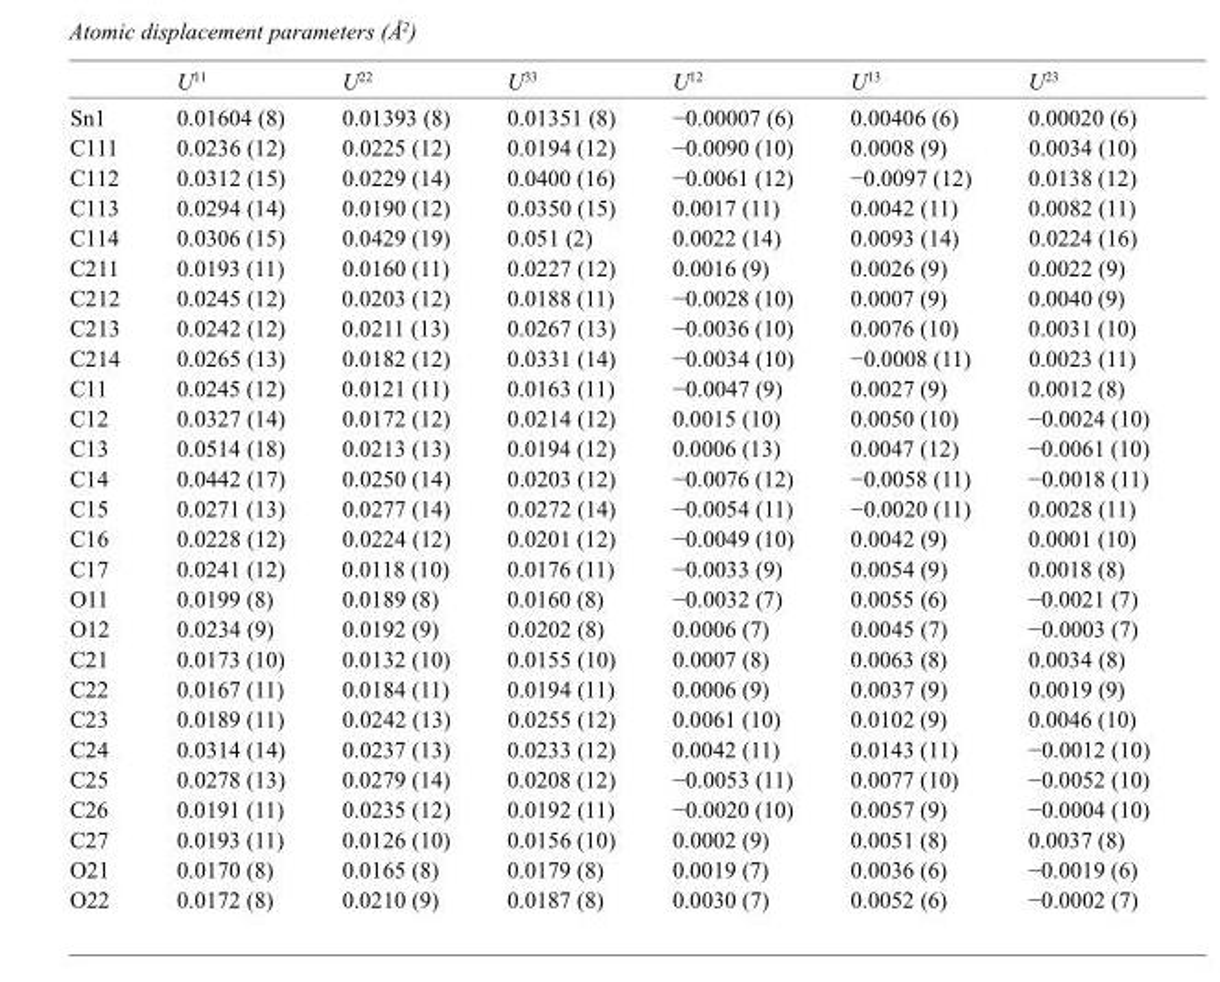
<table><thead><tr><td></td><td>U<sup>11</sup></td><td>U<sup>22</sup></td><td>U<sup>33</sup></td><td>U<sup>12</sup></td><td>U<sup>13</sup></td><td>U<sup>23</sup></td></tr></thead><tbody><tr><td>Sn1</td><td>0.01604 (8)</td><td>0.01393 (8)</td><td>0.01351 (8)</td><td>−0.00007 (6)</td><td>0.00406 (6)</td><td>0.00020 (6)</td></tr><tr><td>C111</td><td>0.0236 (12)</td><td>0.0225 (12)</td><td>0.0194 (12)</td><td>−0.0090 (10)</td><td>0.0008 (9)</td><td>0.0034 (10)</td></tr><tr><td>C112</td><td>0.0312 (15)</td><td>0.0229 (14)</td><td>0.0400 (16)</td><td>−0.0061 (12)</td><td>−0.0097 (12)</td><td>0.0138 (12)</td></tr><tr><td>C113</td><td>0.0294 (14)</td><td>0.0190 (12)</td><td>0.0350 (15)</td><td>0.0017 (11)</td><td>0.0042 (11)</td><td>0.0082 (11)</td></tr><tr><td>C114</td><td>0.0306 (15)</td><td>0.0429 (19)</td><td>0.051 (2)</td><td>0.0022 (14)</td><td>0.0093 (14)</td><td>0.0224 (16)</td></tr><tr><td>C211</td><td>0.0193 (11)</td><td>0.0160 (11)</td><td>0.0227 (12)</td><td>0.0016 (9)</td><td>0.0026 (9)</td><td>0.0022 (9)</td></tr><tr><td>C212</td><td>0.0245 (12)</td><td>0.0203 (12)</td><td>0.0188 (11)</td><td>−0.0028 (10)</td><td>0.0007 (9)</td><td>0.0040 (9)</td></tr><tr><td>C213</td><td>0.0242 (12)</td><td>0.0211 (13)</td><td>0.0267 (13)</td><td>−0.0036 (10)</td><td>0.0076 (10)</td><td>0.0031 (10)</td></tr><tr><td>C214</td><td>0.0265 (13)</td><td>0.0182 (12)</td><td>0.0331 (14)</td><td>−0.0034 (10)</td><td>−0.0008 (11)</td><td>0.0023 (11)</td></tr><tr><td>C11</td><td>0.0245 (12)</td><td>0.0121 (11)</td><td>0.0163 (11)</td><td>−0.0047 (9)</td><td>0.0027 (9)</td><td>0.0012 (8)</td></tr><tr><td>C12</td><td>0.0327 (14)</td><td>0.0172 (12)</td><td>0.0214 (12)</td><td>0.0015 (10)</td><td>0.0050 (10)</td><td>−0.0024 (10)</td></tr><tr><td>C13</td><td>0.0514 (18)</td><td>0.0213 (13)</td><td>0.0194 (12)</td><td>0.0006 (13)</td><td>0.0047 (12)</td><td>−0.0061 (10)</td></tr><tr><td>C14</td><td>0.0442 (17)</td><td>0.0250 (14)</td><td>0.0203 (12)</td><td>−0.0076 (12)</td><td>−0.0058 (11)</td><td>−0.0018 (11)</td></tr><tr><td>C15</td><td>0.0271 (13)</td><td>0.0277 (14)</td><td>0.0272 (14)</td><td>−0.0054 (11)</td><td>−0.0020 (11)</td><td>0.0028 (11)</td></tr><tr><td>C16</td><td>0.0228 (12)</td><td>0.0224 (12)</td><td>0.0201 (12)</td><td>−0.0049 (10)</td><td>0.0042 (9)</td><td>0.0001 (10)</td></tr><tr><td>C17</td><td>0.0241 (12)</td><td>0.0118 (10)</td><td>0.0176 (11)</td><td>−0.0033 (9)</td><td>0.0054 (9)</td><td>0.0018 (8)</td></tr><tr><td>O11</td><td>0.0199 (8)</td><td>0.0189 (8)</td><td>0.0160 (8)</td><td>−0.0032 (7)</td><td>0.0055 (6)</td><td>−0.0021 (7)</td></tr><tr><td>O12</td><td>0.0234 (9)</td><td>0.0192 (9)</td><td>0.0202 (8)</td><td>0.0006 (7)</td><td>0.0045 (7)</td><td>−0.0003 (7)</td></tr><tr><td>C21</td><td>0.0173 (10)</td><td>0.0132 (10)</td><td>0.0155 (10)</td><td>0.0007 (8)</td><td>0.0063 (8)</td><td>0.0034 (8)</td></tr><tr><td>C22</td><td>0.0167 (11)</td><td>0.0184 (11)</td><td>0.0194 (11)</td><td>0.0006 (9)</td><td>0.0037 (9)</td><td>0.0019 (9)</td></tr><tr><td>C23</td><td>0.0189 (11)</td><td>0.0242 (13)</td><td>0.0255 (12)</td><td>0.0061 (10)</td><td>0.0102 (9)</td><td>0.0046 (10)</td></tr><tr><td>C24</td><td>0.0314 (14)</td><td>0.0237 (13)</td><td>0.0233 (12)</td><td>0.0042 (11)</td><td>0.0143 (11)</td><td>−0.0012 (10)</td></tr><tr><td>C25</td><td>0.0278 (13)</td><td>0.0279 (14)</td><td>0.0208 (12)</td><td>−0.0053 (11)</td><td>0.0077 (10)</td><td>−0.0052 (10)</td></tr><tr><td>C26</td><td>0.0191 (11)</td><td>0.0235 (12)</td><td>0.0192 (11)</td><td>−0.0020 (10)</td><td>0.0057 (9)</td><td>−0.0004 (10)</td></tr><tr><td>C27</td><td>0.0193 (11)</td><td>0.0126 (10)</td><td>0.0156 (10)</td><td>0.0002 (9)</td><td>0.0051 (8)</td><td>0.0037 (8)</td></tr><tr><td>O21</td><td>0.0170 (8)</td><td>0.0165 (8)</td><td>0.0179 (8)</td><td>0.0019 (7)</td><td>0.0036 (6)</td><td>−0.0019 (6)</td></tr><tr><td>O22</td><td>0.0172 (8)</td><td>0.0210 (9)</td><td>0.0187 (8)</td><td>0.0030 (7)</td><td>0.0052 (6)</td><td>−0.0002 (7)</td></tr></tbody></table>